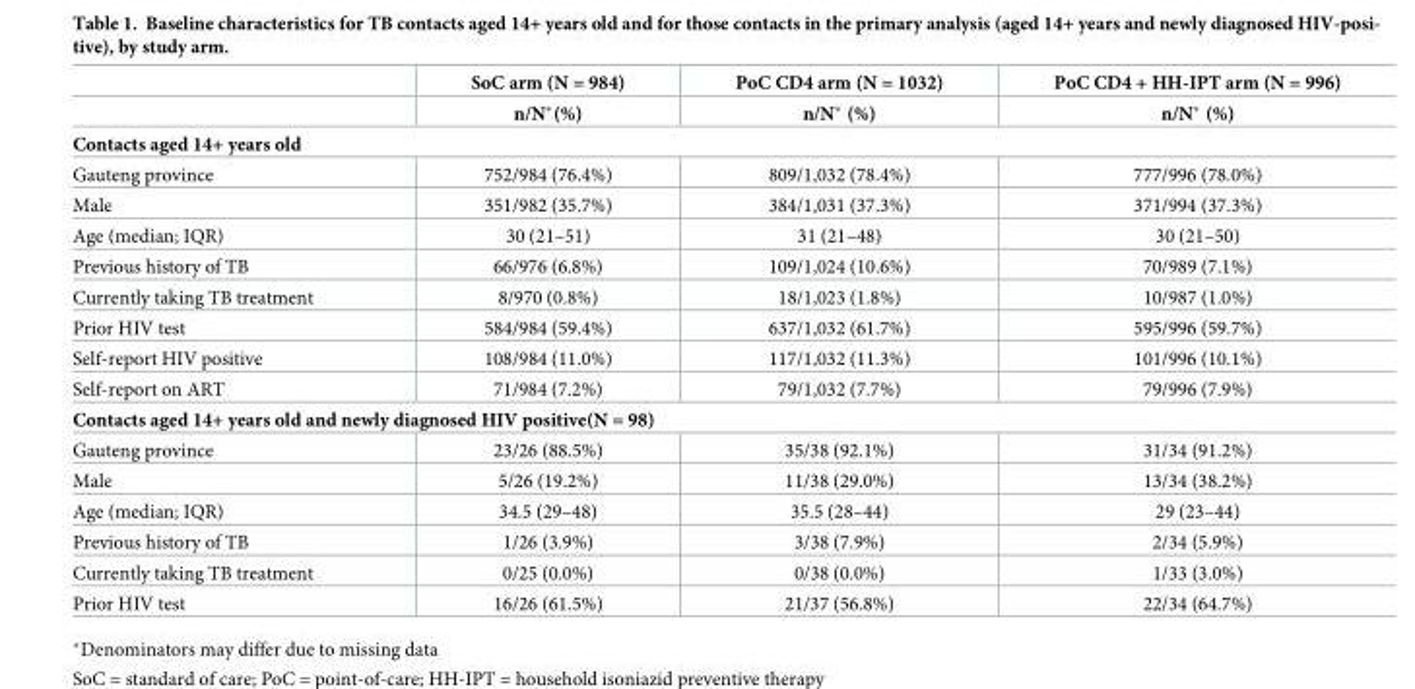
<table><thead><tr><td rowspan="2"></td><td rowspan="2">SoC arm (N = 984) n/N*(%)</td><td rowspan="2">PoC CD4 arm (N = 1032) n/N* (%)</td><td rowspan="2">PoC CD4 + HH-IPT arm (N = 996) n/N* (%)</td></tr><tr></tr></thead><tbody><tr><td colspan="4">Contacts aged 14+ years old</td></tr><tr><td>Gauteng province</td><td>752/984 (76.4%)</td><td>809/1,032 (78.4%)</td><td>777/996 (78.0%)</td></tr><tr><td>Male</td><td>351/982 (35.7%)</td><td>384/1,031 (37.3%)</td><td>371/994 (37.3%)</td></tr><tr><td>Age (median; IQR)</td><td>30 (21–51)</td><td>31 (21–48)</td><td>30 (21–50)</td></tr><tr><td>Previous history of TB</td><td>66/976 (6.8%)</td><td>109/1,024 (10.6%)</td><td>70/989 (7.1%)</td></tr><tr><td>Currently taking TB treatment</td><td>8/970 (0.8%)</td><td>18/1,023 (1.8%)</td><td>10/987 (1.0%)</td></tr><tr><td>Prior HIV test</td><td>584/984 (59.4%)</td><td>637/1,032 (61.7%)</td><td>595/996 (59.7%)</td></tr><tr><td>Self-report HIV positive</td><td>108/984 (11.0%)</td><td>117/1,032 (11.3%)</td><td>101/996 (10.1%)</td></tr><tr><td>Self-report on ART</td><td>71/984 (7.2%)</td><td>79/1,032 (7.7%)</td><td>79/996 (7.9%)</td></tr><tr><td colspan="4">Contacts aged 14+ years old and newly diagnosed HIV positive(N = 98)</td></tr><tr><td>Gauteng province</td><td>23/26 (88.5%)</td><td>35/38 (92.1%)</td><td>31/34 (91.2%)</td></tr><tr><td>Male</td><td>5/26 (19.2%)</td><td>11/38 (29.0%)</td><td>13/34 (38.2%)</td></tr><tr><td>Age (median; IQR)</td><td>34.5 (29–48)</td><td>35.5 (28–44)</td><td>29 (23–44)</td></tr><tr><td>Previous history of TB</td><td>1/26 (3.9%)</td><td>3/38 (7.9%)</td><td>2/34 (5.9%)</td></tr><tr><td>Currently taking TB treatment</td><td>0/25 (0.0%)</td><td>0/38 (0.0%)</td><td>1/33 (3.0%)</td></tr><tr><td>Prior HIV test</td><td>16/26 (61.5%)</td><td>21/37 (56.8%)</td><td>22/34 (64.7%)</td></tr></tbody></table>